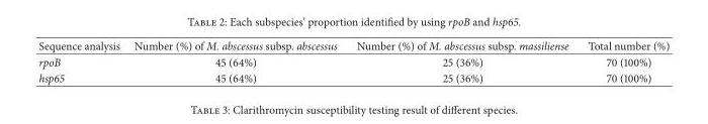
<table><thead><tr><td>Sequence analysis</td><td>Number (%) of M. abscessus subsp. abscessus</td><td>Number (%) of M. abscessus subsp. massiliense</td><td>Total number (%)</td></tr></thead><tbody><tr><td>rpoB</td><td>45 (64%)</td><td>25 (36%)</td><td>70 (100%)</td></tr><tr><td>hsp65</td><td>45 (64%)</td><td>25 (36%)</td><td>70 (100%)</td></tr></tbody></table>